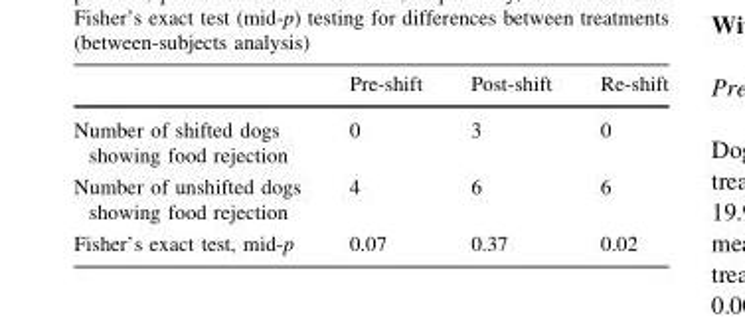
<table><thead><tr><td></td><td>Pre-shift</td><td>Post-shift</td><td>Re-shift</td></tr></thead><tbody><tr><td>Number of shifted dogs showing food rejection</td><td>0</td><td>3</td><td>0</td></tr><tr><td>Number of unshifted dogs showing food rejection</td><td>4</td><td>6</td><td>6</td></tr><tr><td>Fisher’s exact test, mid-p</td><td>0.07</td><td>0.37</td><td>0.02</td></tr></tbody></table>